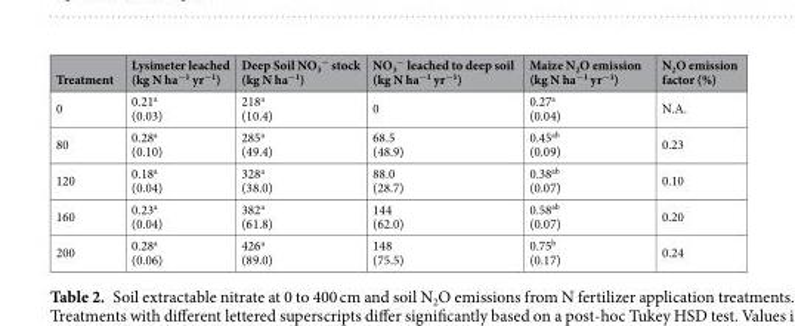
<table><thead><tr><td>Treatment</td><td>Lysimeter leached (kg N ha<sup>−1</sup> yr<sup>−1</sup>)</td><td>Deep Soil NO<sub>3</sub> <sup>−</sup> stock (kg N ha<sup>−1</sup>)</td><td>NO<sub>3</sub> <sup>−</sup> leached to deep soil (kg N ha<sup>−1</sup> yr<sup>−1</sup>)</td><td>Maize N<sub>2</sub>O emission (kg N ha<sup>−1</sup> yr<sup>−1</sup>)</td><td>N<sub>2</sub>O emission factor (%)</td></tr></thead><tbody><tr><td>0</td><td>0.21<sup>a</sup> (0.03)</td><td>218<sup>a</sup> (10.4)</td><td>0</td><td>0.27<sup>a</sup> (0.04)</td><td>N.A.</td></tr><tr><td>80</td><td>0.28<sup>a</sup> (0.10)</td><td>285<sup>a</sup> (49.4)</td><td>68.5 (48.9)</td><td>0.45<sup>ab</sup> (0.09)</td><td>0.23</td></tr><tr><td>120</td><td>0.18<sup>a</sup> (0.04)</td><td>328<sup>a</sup> (38.0)</td><td>88.0 (28.7)</td><td>0.38<sup>ab</sup> (0.07)</td><td>0.10</td></tr><tr><td>160</td><td>0.23<sup>a</sup> (0.04)</td><td>382<sup>a</sup> (61.8)</td><td>144 (62.0)</td><td>0.58<sup>ab</sup> (0.07)</td><td>0.20</td></tr><tr><td>200</td><td>0.28<sup>a</sup> (0.06)</td><td>426<sup>a</sup> (89.0)</td><td>148 (75.5)</td><td>0.75<sup>b</sup> (0.17)</td><td>0.24</td></tr></tbody></table>